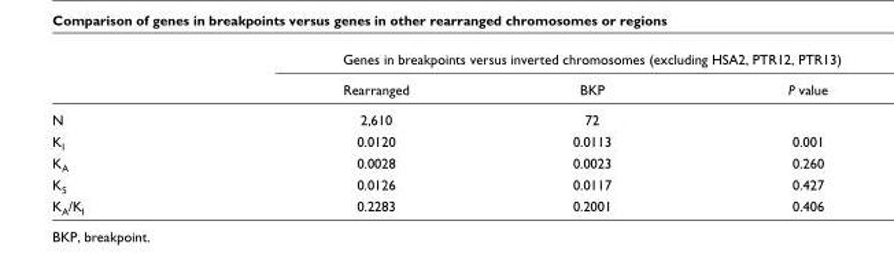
<table><thead><tr><td rowspan="2"></td><td colspan="3">Genes in breakpoints versus inverted chromosomes (excluding HSA2, PTR12, PTR13)</td></tr><tr><td>Rearranged</td><td>BKP</td><td>P value</td></tr></thead><tbody><tr><td>N</td><td>2,610</td><td>72</td><td></td></tr><tr><td>K<sub>I</sub></td><td>0.0120</td><td>0.0113</td><td>0.001</td></tr><tr><td>K<sub>A</sub></td><td>0.0028</td><td>0.0023</td><td>0.260</td></tr><tr><td>K<sub>S</sub></td><td>0.0126</td><td>0.0117</td><td>0.427</td></tr><tr><td>K<sub>A</sub>/K<sub>I</sub></td><td>0.2283</td><td>0.2001</td><td>0.406</td></tr></tbody></table>